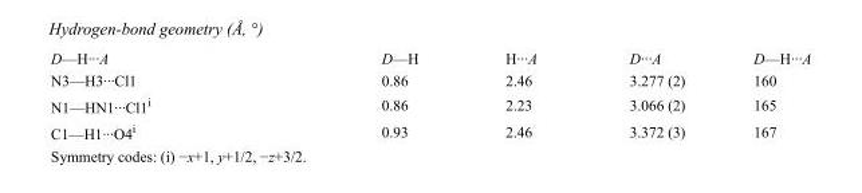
<table><tbody><tr><td>D—H···A</td><td>D—H</td><td>H···A</td><td>D···A</td><td>D—H···A</td></tr><tr><td>N3—H3···Cl1</td><td>0.86</td><td>2.46</td><td>3.277 (2)</td><td>160</td></tr><tr><td>N1—HN1···Cl1<sup>i</sup></td><td>0.86</td><td>2.23</td><td>3.066 (2)</td><td>165</td></tr><tr><td>C1—H1···O4<sup>i</sup></td><td>0.93</td><td>2.46</td><td>3.372 (3)</td><td>167</td></tr></tbody></table>